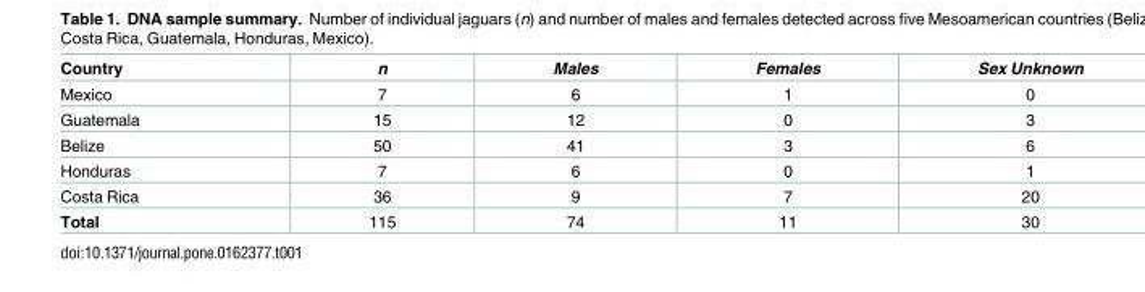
<table><thead><tr><td>Country</td><td>n</td><td>Males</td><td>Females</td><td>Sex Unknown</td></tr></thead><tbody><tr><td>Mexico</td><td>7</td><td>6</td><td>1</td><td>0</td></tr><tr><td>Guatemala</td><td>15</td><td>12</td><td>0</td><td>3</td></tr><tr><td>Belize</td><td>50</td><td>41</td><td>3</td><td>6</td></tr><tr><td>Honduras</td><td>7</td><td>6</td><td>0</td><td>1</td></tr><tr><td>Costa Rica</td><td>36</td><td>9</td><td>7</td><td>20</td></tr><tr><td>Total</td><td>115</td><td>74</td><td>11</td><td>30</td></tr></tbody></table>